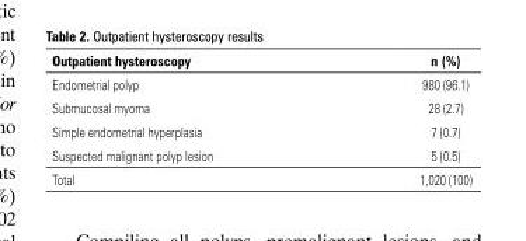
<table><thead><tr><td>Outpatient hysteroscopy</td><td>n (%)</td></tr></thead><tbody><tr><td>Endometrial polyp</td><td>980 (96.1)</td></tr><tr><td>Submucosal myoma</td><td>28 (2.7)</td></tr><tr><td>Simple endometrial hyperplasia</td><td>7 (0.7)</td></tr><tr><td>Suspected malignant polyp lesion</td><td>5 (0.5)</td></tr><tr><td>Total</td><td>1,020 (100)</td></tr></tbody></table>